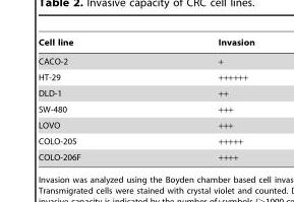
<table><thead><tr><td>Cell line</td><td>Invasion</td></tr></thead><tbody><tr><td>CACO-2</td><td>+</td></tr><tr><td>HT-29</td><td>++++++</td></tr><tr><td>DLD-1</td><td>++</td></tr><tr><td>SW-480</td><td>+++</td></tr><tr><td>LOVO</td><td>+++</td></tr><tr><td>COLO-205</td><td>+++++</td></tr><tr><td>COLO-206F</td><td>++++</td></tr></tbody></table>